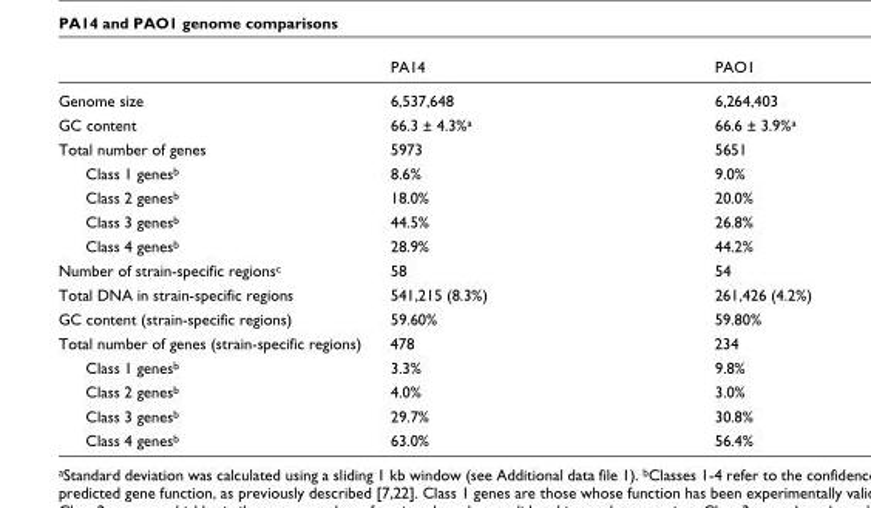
<table><thead><tr><td></td><td>PA14</td><td>PAO1</td></tr></thead><tbody><tr><td>Genome size</td><td>6,537,648</td><td>6,264,403</td></tr><tr><td>GC content</td><td>66.3 ± 4.3%a</td><td>66.6 ± 3.9%a</td></tr><tr><td>Total number of genes</td><td>5973</td><td>5651</td></tr><tr><td>Class 1 genesb</td><td>8.6%</td><td>9.0%</td></tr><tr><td>Class 2 genesb</td><td>18.0%</td><td>20.0%</td></tr><tr><td>Class 3 genesb</td><td>44.5%</td><td>26.8%</td></tr><tr><td>Class 4 genesb</td><td>28.9%</td><td>44.2%</td></tr><tr><td>Number of strain-specific regionsc</td><td>58</td><td>54</td></tr><tr><td>Total DNA in strain-specific regions</td><td>541,215 (8.3%)</td><td>261,426 (4.2%)</td></tr><tr><td>GC content (strain-specific regions)</td><td>59.60%</td><td>59.80%</td></tr><tr><td>Total number of genes (strain-specific regions)</td><td>478</td><td>234</td></tr><tr><td>Class 1 genesb</td><td>3.3%</td><td>9.8%</td></tr><tr><td>Class 2 genesb</td><td>4.0%</td><td>3.0%</td></tr><tr><td>Class 3 genesb</td><td>29.7%</td><td>30.8%</td></tr><tr><td>Class 4 genesb</td><td>63.0%</td><td>56.4%</td></tr></tbody></table>